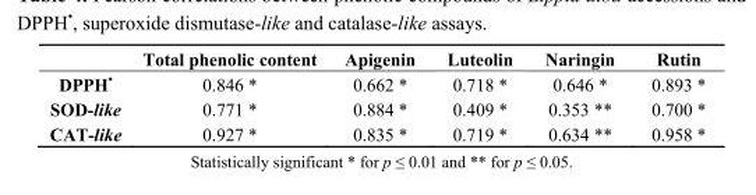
<table><thead><tr><td></td><td>Total phenolic content</td><td>Apigenin</td><td>Luteolin</td><td>Naringin</td><td>Rutin</td></tr></thead><tbody><tr><td>DPPH<sup>•</sup></td><td>0.846 *</td><td>0.662 *</td><td>0.718 *</td><td>0.646 *</td><td>0.893 *</td></tr><tr><td>SOD-like</td><td>0.771 *</td><td>0.884 *</td><td>0.409 *</td><td>0.353 **</td><td>0.700 *</td></tr><tr><td>CAT-like</td><td>0.927 *</td><td>0.835 *</td><td>0.719 *</td><td>0.634 **</td><td>0.958 *</td></tr></tbody></table>